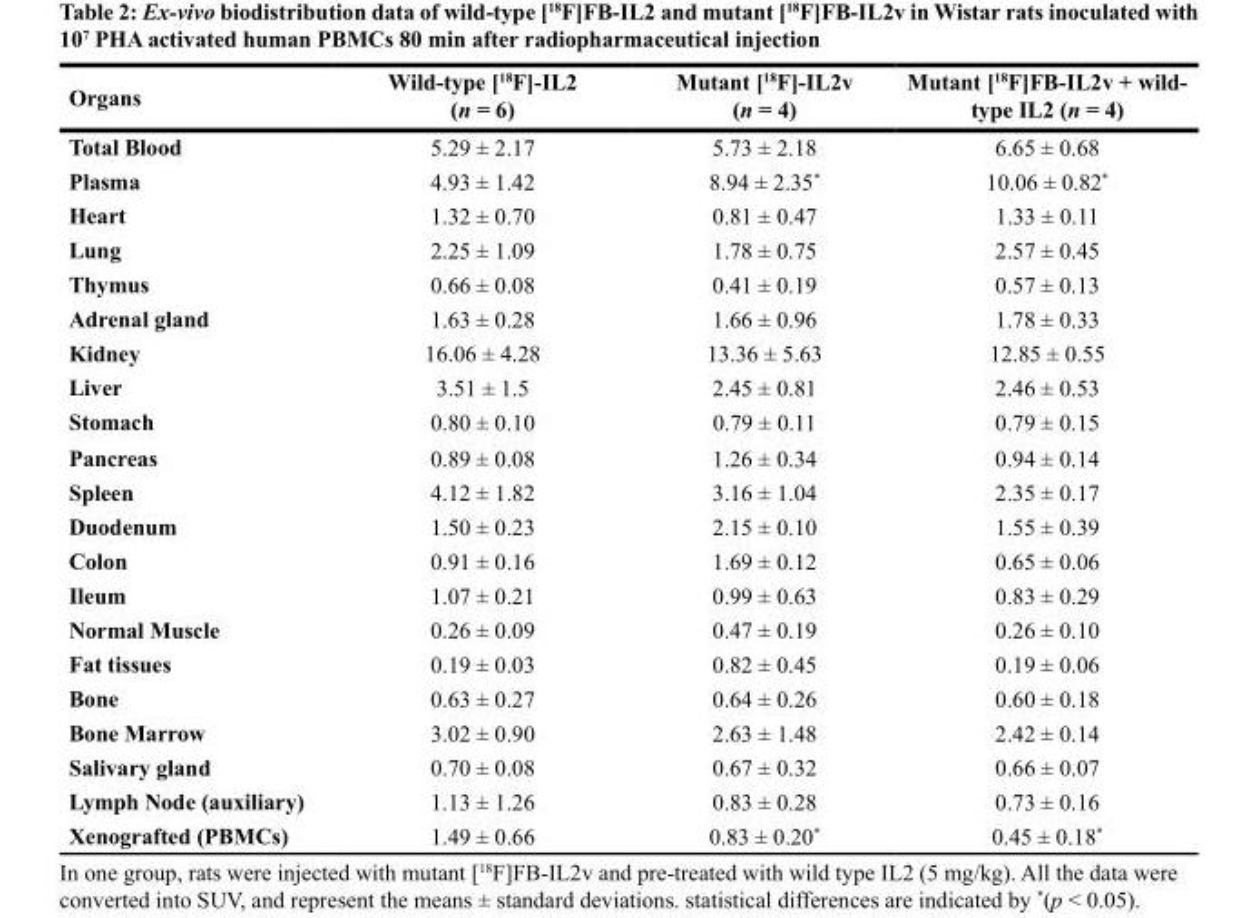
<table><thead><tr><td>Organs</td><td>Wild-type [<sup>18</sup>F]-IL2 (n = 6)</td><td>Mutant [<sup>18</sup>F]-IL2v (n = 4)</td><td>Mutant [<sup>18</sup>F]FB-IL2v + wild- type IL2 (n = 4)</td></tr></thead><tbody><tr><td>Total Blood</td><td>5.29 ± 2.17</td><td>5.73 ± 2.18</td><td>6.65 ± 0.68</td></tr><tr><td>Plasma</td><td>4.93 ± 1.42</td><td>8.94 ± 2.35*</td><td>10.06 ± 0.82*</td></tr><tr><td>Heart</td><td>1.32 ± 0.70</td><td>0.81 ± 0.47</td><td>1.33 ± 0.11</td></tr><tr><td>Lung</td><td>2.25 ± 1.09</td><td>1.78 ± 0.75</td><td>2.57 ± 0.45</td></tr><tr><td>Thymus</td><td>0.66 ± 0.08</td><td>0.41 ± 0.19</td><td>0.57 ± 0.13</td></tr><tr><td>Adrenal gland</td><td>1.63 ± 0.28</td><td>1.66 ± 0.96</td><td>1.78 ± 0.33</td></tr><tr><td>Kidney</td><td>16.06 ± 4.28</td><td>13.36 ± 5.63</td><td>12.85 ± 0.55</td></tr><tr><td>Liver</td><td>3.51 ± 1.5</td><td>2.45 ± 0.81</td><td>2.46 ± 0.53</td></tr><tr><td>Stomach</td><td>0.80 ± 0.10</td><td>0.79 ± 0.11</td><td>0.79 ± 0.15</td></tr><tr><td>Pancreas</td><td>0.89 ± 0.08</td><td>1.26 ± 0.34</td><td>0.94 ± 0.14</td></tr><tr><td>Spleen</td><td>4.12 ± 1.82</td><td>3.16 ± 1.04</td><td>2.35 ± 0.17</td></tr><tr><td>Duodenum</td><td>1.50 ± 0.23</td><td>2.15 ± 0.10</td><td>1.55 ± 0.39</td></tr><tr><td>Colon</td><td>0.91 ± 0.16</td><td>1.69 ± 0.12</td><td>0.65 ± 0.06</td></tr><tr><td>Ileum</td><td>1.07 ± 0.21</td><td>0.99 ± 0.63</td><td>0.83 ± 0.29</td></tr><tr><td>Normal Muscle</td><td>0.26 ± 0.09</td><td>0.47 ± 0.19</td><td>0.26 ± 0.10</td></tr><tr><td>Fat tissues</td><td>0.19 ± 0.03</td><td>0.82 ± 0.45</td><td>0.19 ± 0.06</td></tr><tr><td>Bone</td><td>0.63 ± 0.27</td><td>0.64 ± 0.26</td><td>0.60 ± 0.18</td></tr><tr><td>Bone Marrow</td><td>3.02 ± 0.90</td><td>2.63 ± 1.48</td><td>2.42 ± 0.14</td></tr><tr><td>Salivary gland</td><td>0.70 ± 0.08</td><td>0.67 ± 0.32</td><td>0.66 ± 0.07</td></tr><tr><td>Lymph Node (auxiliary)</td><td>1.13 ± 1.26</td><td>0.83 ± 0.28</td><td>0.73 ± 0.16</td></tr><tr><td>Xenografted (PBMCs)</td><td>1.49 ± 0.66</td><td>0.83 ± 0.20*</td><td>0.45 ± 0.18*</td></tr></tbody></table>